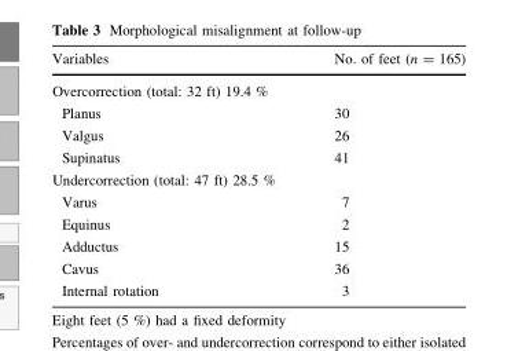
<table><thead><tr><td>Variables</td><td>No. of feet (n = 165)</td></tr></thead><tbody><tr><td colspan="2">Overcorrection (total: 32 ft) 19.4 %</td></tr><tr><td>Planus</td><td>30</td></tr><tr><td>Valgus</td><td>26</td></tr><tr><td>Supinatus</td><td>41</td></tr><tr><td colspan="2">Undercorrection (total: 47 ft) 28.5 %</td></tr><tr><td>Varus</td><td>7</td></tr><tr><td>Equinus</td><td>2</td></tr><tr><td>Adductus</td><td>15</td></tr><tr><td>Cavus</td><td>36</td></tr><tr><td>Internal rotation</td><td>3</td></tr></tbody></table>